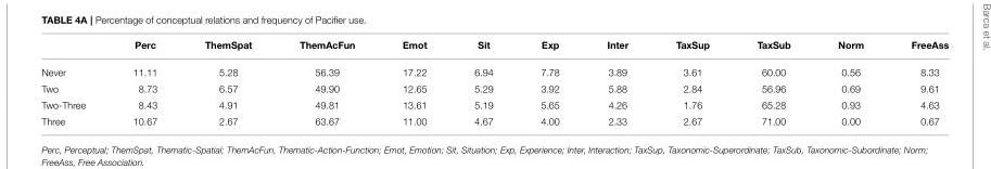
<table><thead><tr><td></td><td>Perc</td><td>ThemSpat</td><td>ThemAcFun</td><td>Emot</td><td>Sit</td><td>Exp</td><td>Inter</td><td>TaxSup</td><td>TaxSub</td><td>Norm</td><td>FreeAss</td></tr></thead><tbody><tr><td>Never</td><td>11.11</td><td>5.28</td><td>56.39</td><td>17.22</td><td>6.94</td><td>7.78</td><td>3.89</td><td>3.61</td><td>60.00</td><td>0.56</td><td>8.33</td></tr><tr><td>Two</td><td>8.73</td><td>6.57</td><td>49.90</td><td>12.65</td><td>5.29</td><td>3.92</td><td>5.88</td><td>2.84</td><td>56.96</td><td>0.69</td><td>9.61</td></tr><tr><td>Two-Three</td><td>8.43</td><td>4.91</td><td>49.81</td><td>13.61</td><td>5.19</td><td>5.65</td><td>4.26</td><td>1.76</td><td>65.28</td><td>0.93</td><td>4.63</td></tr><tr><td>Three</td><td>10.67</td><td>2.67</td><td>63.67</td><td>11.00</td><td>4.67</td><td>4.00</td><td>2.33</td><td>2.67</td><td>71.00</td><td>0.00</td><td>0.67</td></tr></tbody></table>